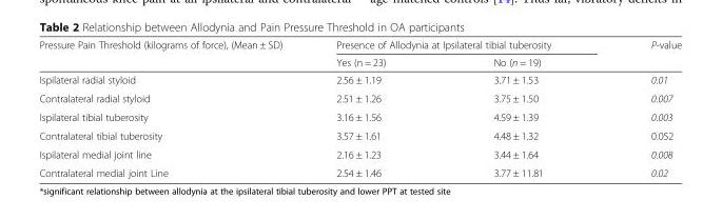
<table><thead><tr><td rowspan="2">Pressure Pain Threshold (kilograms of force), (Mean ± SD)</td><td colspan="2">Presence of Allodynia at Ipsilateral tibial tuberosity</td><td rowspan="2">P-value</td></tr><tr><td>Yes (n = 23)</td><td>No (n = 19)</td></tr></thead><tbody><tr><td>Ispilateral radial styloid</td><td>2.56 ± 1.19</td><td>3.71 ± 1.53</td><td>0.01</td></tr><tr><td>Contralateral radial styloid</td><td>2.51 ± 1.26</td><td>3.75 ± 1.50</td><td>0.007</td></tr><tr><td>Ispilateral tibial tuberosity</td><td>3.16 ± 1.56</td><td>4.59 ± 1.39</td><td>0.003</td></tr><tr><td>Contralateral tibial tuberosity</td><td>3.57 ± 1.61</td><td>4.48 ± 1.32</td><td>0.052</td></tr><tr><td>Ispilateral medial joint line</td><td>2.16 ± 1.23</td><td>3.44 ± 1.64</td><td>0.008</td></tr><tr><td>Contralateral medial joint Line</td><td>2.54 ± 1.46</td><td>3.77 ± 11.81</td><td>0.02</td></tr></tbody></table>